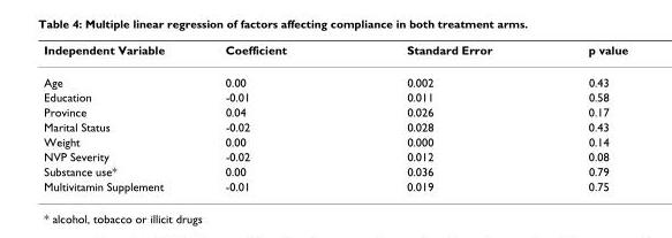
<table><thead><tr><td>Independent Variable</td><td>Coefficient</td><td>Standard Error</td><td>p value</td></tr></thead><tbody><tr><td>Age</td><td>0.00</td><td>0.002</td><td>0.43</td></tr><tr><td>Education</td><td>-0.01</td><td>0.011</td><td>0.58</td></tr><tr><td>Province</td><td>0.04</td><td>0.026</td><td>0.17</td></tr><tr><td>Marital Status</td><td>-0.02</td><td>0.028</td><td>0.43</td></tr><tr><td>Weight</td><td>0.00</td><td>0.000</td><td>0.14</td></tr><tr><td>NVP Severity</td><td>-0.02</td><td>0.012</td><td>0.08</td></tr><tr><td>Substance use*</td><td>0.00</td><td>0.036</td><td>0.79</td></tr><tr><td>Multivitamin Supplement</td><td>-0.01</td><td>0.019</td><td>0.75</td></tr></tbody></table>